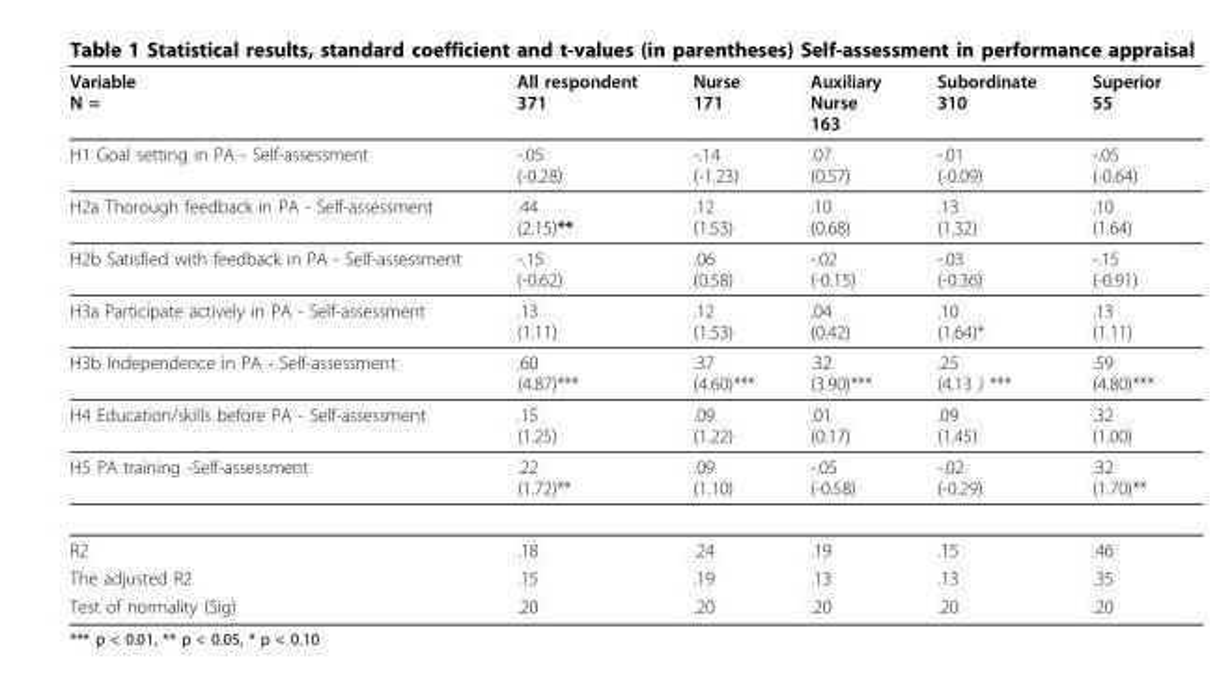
<table><thead><tr><td>Variable N =</td><td>All respondent 371</td><td>Nurse 171</td><td>Auxiliary Nurse 163</td><td>Subordinate 310</td><td>Superior 55</td></tr></thead><tbody><tr><td>H1 Goal setting in PA - Self-assessment</td><td>-.05 (-0.28)</td><td>-.14 (-1.23)</td><td>.07 (0.57)</td><td>-.01 (-0.09)</td><td>-.05 (-0.64)</td></tr><tr><td>H2a Thorough feedback in PA - Self-assessment</td><td>.44 (2.15)**</td><td>.12 (1.53)</td><td>.10 (0.68)</td><td>.13 (1.32)</td><td>.10 (1.64)</td></tr><tr><td>H2b Satisfied with feedback in PA - Self-assessment</td><td>-.15 (-0.62)</td><td>.06 (0.58)</td><td>-.02 (-0.15)</td><td>-.03 (-0.36)</td><td>-.15 (-0.91)</td></tr><tr><td>H3a Participate actively in PA - Self-assessment</td><td>.13 (1.11)</td><td>.12 (1.53)</td><td>.04 (0.42)</td><td>.10 (1.64)*</td><td>.13 (1.11)</td></tr><tr><td>H3b Independence in PA - Self-assessment</td><td>.60 (4.87)***</td><td>.37 (4.60)***</td><td>.32 (3.90)***</td><td>.25 (4.13 ) ***</td><td>.59 (4.80)***</td></tr><tr><td>H4 Education/skills before PA - Self-assessment</td><td>.15 (1.25)</td><td>.09 (1.22)</td><td>.01 (0.17)</td><td>.09 (1.45)</td><td>.32 (1.00)</td></tr><tr><td>H5 PA training -Self-assessment</td><td>.22 (1.72)**</td><td>.09 (1.10)</td><td>-.05 (-0.58)</td><td>-.02 (-0.29)</td><td>.32 (1.70)**</td></tr><tr><td>R2</td><td>.18</td><td>.24</td><td>.19</td><td>.15</td><td>.46</td></tr><tr><td>The adjusted R2</td><td>.15</td><td>.19</td><td>.13</td><td>.13</td><td>.35</td></tr><tr><td>Test of normality (Sig)</td><td>.20</td><td>.20</td><td>.20</td><td>.20</td><td>.20</td></tr></tbody></table>